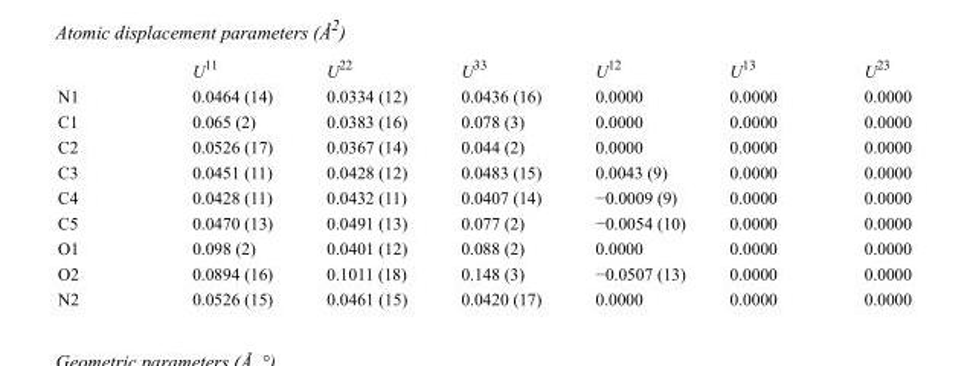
<table><thead><tr><td></td><td>U<sup>11</sup></td><td>U<sup>22</sup></td><td>U<sup>33</sup></td><td>U<sup>12</sup></td><td>U<sup>13</sup></td><td>U<sup>23</sup></td></tr></thead><tbody><tr><td>N1</td><td>0.0464 (14)</td><td>0.0334 (12)</td><td>0.0436 (16)</td><td>0.0000</td><td>0.0000</td><td>0.0000</td></tr><tr><td>C1</td><td>0.065 (2)</td><td>0.0383 (16)</td><td>0.078 (3)</td><td>0.0000</td><td>0.0000</td><td>0.0000</td></tr><tr><td>C2</td><td>0.0526 (17)</td><td>0.0367 (14)</td><td>0.044 (2)</td><td>0.0000</td><td>0.0000</td><td>0.0000</td></tr><tr><td>C3</td><td>0.0451 (11)</td><td>0.0428 (12)</td><td>0.0483 (15)</td><td>0.0043 (9)</td><td>0.0000</td><td>0.0000</td></tr><tr><td>C4</td><td>0.0428 (11)</td><td>0.0432 (11)</td><td>0.0407 (14)</td><td>−0.0009 (9)</td><td>0.0000</td><td>0.0000</td></tr><tr><td>C5</td><td>0.0470 (13)</td><td>0.0491 (13)</td><td>0.077 (2)</td><td>−0.0054 (10)</td><td>0.0000</td><td>0.0000</td></tr><tr><td>O1</td><td>0.098 (2)</td><td>0.0401 (12)</td><td>0.088 (2)</td><td>0.0000</td><td>0.0000</td><td>0.0000</td></tr><tr><td>O2</td><td>0.0894 (16)</td><td>0.1011 (18)</td><td>0.148 (3)</td><td>−0.0507 (13)</td><td>0.0000</td><td>0.0000</td></tr><tr><td>N2</td><td>0.0526 (15)</td><td>0.0461 (15)</td><td>0.0420 (17)</td><td>0.0000</td><td>0.0000</td><td>0.0000</td></tr></tbody></table>